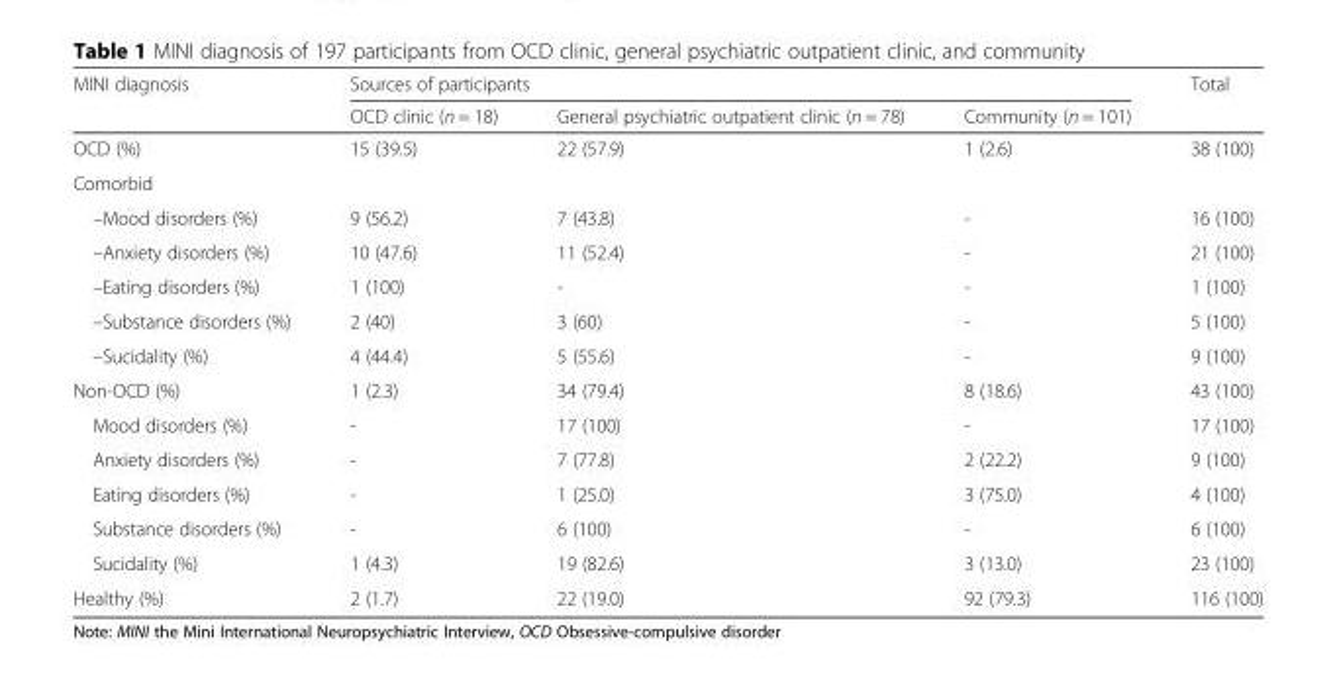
<table><thead><tr><td rowspan="2">MINI diagnosis</td><td colspan="3">Sources of participants</td><td rowspan="2">Total</td></tr><tr><td>OCD clinic (n = 18)</td><td>General psychiatric outpatient clinic (n = 78)</td><td>Community (n = 101)</td></tr></thead><tbody><tr><td>OCD (%)</td><td>15 (39.5)</td><td>22 (57.9)</td><td>1 (2.6)</td><td>38 (100)</td></tr><tr><td colspan="5">Comorbid</td></tr><tr><td>–Mood disorders (%)</td><td>9 (56.2)</td><td>7 (43.8)</td><td>-</td><td>16 (100)</td></tr><tr><td>–Anxiety disorders (%)</td><td>10 (47.6)</td><td>11 (52.4)</td><td>-</td><td>21 (100)</td></tr><tr><td>–Eating disorders (%)</td><td>1 (100)</td><td>-</td><td>-</td><td>1 (100)</td></tr><tr><td>–Substance disorders (%)</td><td>2 (40)</td><td>3 (60)</td><td>-</td><td>5 (100)</td></tr><tr><td>–Sucidality (%)</td><td>4 (44.4)</td><td>5 (55.6)</td><td>-</td><td>9 (100)</td></tr><tr><td>Non-OCD (%)</td><td>1 (2.3)</td><td>34 (79.4)</td><td>8 (18.6)</td><td>43 (100)</td></tr><tr><td>Mood disorders (%)</td><td>-</td><td>17 (100)</td><td>-</td><td>17 (100)</td></tr><tr><td>Anxiety disorders (%)</td><td>-</td><td>7 (77.8)</td><td>2 (22.2)</td><td>9 (100)</td></tr><tr><td>Eating disorders (%)</td><td>-</td><td>1 (25.0)</td><td>3 (75.0)</td><td>4 (100)</td></tr><tr><td>Substance disorders (%)</td><td>-</td><td>6 (100)</td><td>-</td><td>6 (100)</td></tr><tr><td>Sucidality (%)</td><td>1 (4.3)</td><td>19 (82.6)</td><td>3 (13.0)</td><td>23 (100)</td></tr><tr><td>Healthy (%)</td><td>2 (1.7)</td><td>22 (19.0)</td><td>92 (79.3)</td><td>116 (100)</td></tr></tbody></table>